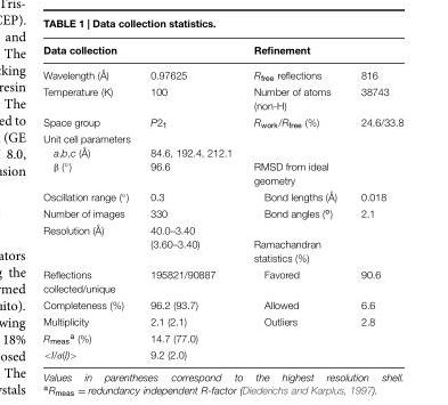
<table><thead><tr><td>Data collection</td><td></td><td>Refinement</td><td></td></tr></thead><tbody><tr><td>Wavelength (Å)</td><td>0.97625</td><td>R<sub>free</sub> reflections</td><td>816</td></tr><tr><td>Temperature (K)</td><td>100</td><td>Number of atoms (non-H)</td><td>38743</td></tr><tr><td>Space group</td><td>P2<sub>1</sub></td><td>R<sub>work</sub>/R<sub>free</sub> (%)</td><td>24.6/33.8</td></tr><tr><td>Unit cell parameters a,b,c (Å) β (◦)</td><td>84.6, 192.4, 212.1 96.6</td><td>RMSD from ideal geometry</td><td></td></tr><tr><td>Oscillation range (◦)</td><td>0.3</td><td>Bond lengths (Å)</td><td>0.018</td></tr><tr><td>Number of images</td><td>330</td><td>Bond angles (<sup>o</sup>)</td><td>2.1</td></tr><tr><td>Resolution (Å)</td><td>40.0–3.40 (3.60–3.40)</td><td>Ramachandran statistics (%)</td><td></td></tr><tr><td>Reflections collected/unique</td><td>195821/90887</td><td>Favored</td><td>90.6</td></tr><tr><td>Completeness (%)</td><td>96.2 (93.7)</td><td>Allowed</td><td>6.6</td></tr><tr><td>Multiplicity</td><td>2.1 (2.1)</td><td>Outliers</td><td>2.8</td></tr><tr><td>R<sub>meas</sub><sup>a</sup> (%)</td><td>14.7 (77.0)</td><td></td><td></td></tr><tr><td>&lt;I/σ(I)&gt;</td><td>9.2 (2.0)</td><td></td><td></td></tr></tbody></table>